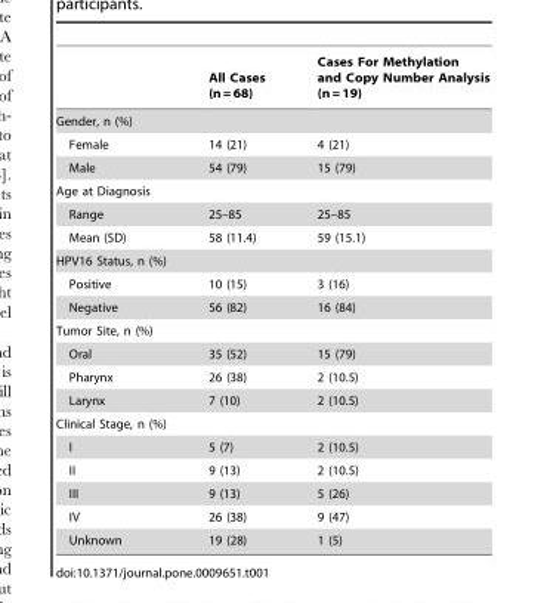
<table><thead><tr><td></td><td>All Cases (n = 68)</td><td>Cases For Methylation and Copy Number Analysis (n = 19)</td></tr></thead><tbody><tr><td colspan="3">Gender, n (%)</td></tr><tr><td>Female</td><td>14 (21)</td><td>4 (21)</td></tr><tr><td>Male</td><td>54 (79)</td><td>15 (79)</td></tr><tr><td colspan="3">Age at Diagnosis</td></tr><tr><td>Range</td><td>25–85</td><td>25–85</td></tr><tr><td>Mean (SD)</td><td>58 (11.4)</td><td>59 (15.1)</td></tr><tr><td colspan="3">HPV16 Status, n (%)</td></tr><tr><td>Positive</td><td>10 (15)</td><td>3 (16)</td></tr><tr><td>Negative</td><td>56 (82)</td><td>16 (84)</td></tr><tr><td colspan="3">Tumor Site, n (%)</td></tr><tr><td>Oral</td><td>35 (52)</td><td>15 (79)</td></tr><tr><td>Pharynx</td><td>26 (38)</td><td>2 (10.5)</td></tr><tr><td>Larynx</td><td>7 (10)</td><td>2 (10.5)</td></tr><tr><td colspan="3">Clinical Stage, n (%)</td></tr><tr><td>I</td><td>5 (7)</td><td>2 (10.5)</td></tr><tr><td>II</td><td>9 (13)</td><td>2 (10.5)</td></tr><tr><td>III</td><td>9 (13)</td><td>5 (26)</td></tr><tr><td>IV</td><td>26 (38)</td><td>9 (47)</td></tr><tr><td>Unknown</td><td>19 (28)</td><td>1 (5)</td></tr></tbody></table>